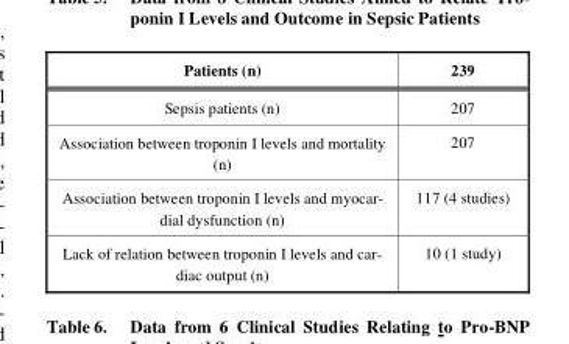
<table><thead><tr><td>Patients (n)</td><td>239</td></tr></thead><tbody><tr><td>Sepsis patients (n)</td><td>207</td></tr><tr><td>Association between troponin I levels and mortality (n)</td><td>207</td></tr><tr><td>Association between troponin I levels and myocar- dial dysfunction (n)</td><td>117 (4 studies)</td></tr><tr><td>Lack of relation between troponin I levels and car- diac output (n)</td><td>10 (1 study)</td></tr></tbody></table>